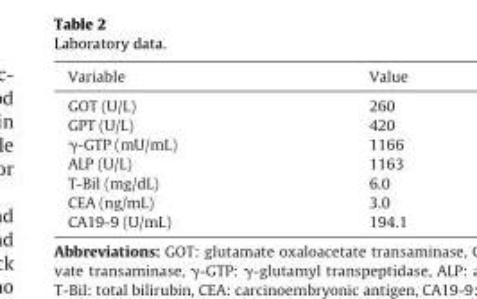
<table><thead><tr><td>Variable</td><td>Value</td></tr></thead><tbody><tr><td>GOT (U/L)</td><td>260</td></tr><tr><td>GPT (U/L)</td><td>420</td></tr><tr><td>γ-GTP (mU/mL)</td><td>1166</td></tr><tr><td>ALP (U/L)</td><td>1163</td></tr><tr><td>T-Bil (mg/dL)</td><td>6.0</td></tr><tr><td>CEA (ng/mL)</td><td>3.0</td></tr><tr><td>CA19-9 (U/mL)</td><td>194.1</td></tr></tbody></table>